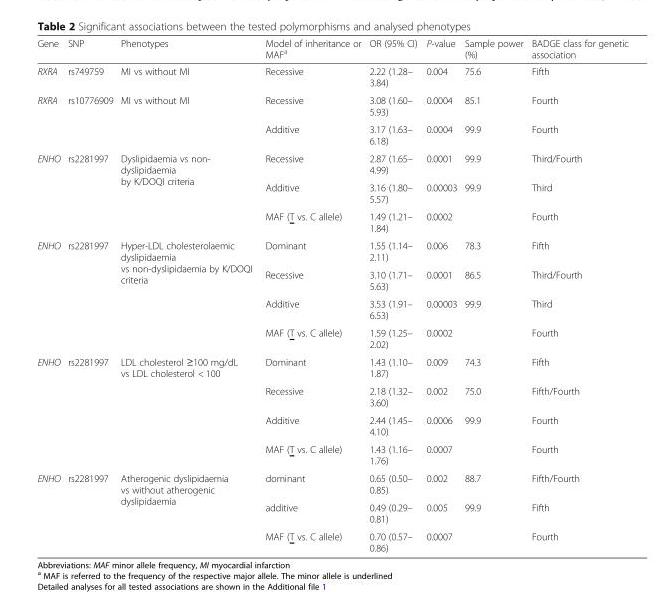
<table><thead><tr><td>Gene</td><td>SNP</td><td>Phenotypes</td><td>Model of inheritance or MAF<sup>a</sup></td><td>OR (95% CI)</td><td>P-value</td><td>Sample power (%)</td><td>BADGE class for genetic association</td></tr></thead><tbody><tr><td>RXRA</td><td>rs749759</td><td>MI vs without MI</td><td>Recessive</td><td>2.22 (1.28– 3.84)</td><td>0.004</td><td>75.6</td><td>Fifth</td></tr><tr><td rowspan="2">RXRA</td><td>rs10776909</td><td rowspan="2">MI vs without MI</td><td>Recessive</td><td>3.08 (1.60– 5.93)</td><td>0.0004</td><td>85.1</td><td>Fourth</td></tr><tr><td></td><td>Additive</td><td>3.17 (1.63– 6.18)</td><td>0.0004</td><td>99.9</td><td>Fourth</td></tr><tr><td rowspan="3">ENHO</td><td>rs2281997</td><td rowspan="3">Dyslipidaemia vs non- dyslipidaemia by K/DOQI criteria</td><td>Recessive</td><td>2.87 (1.65– 4.99)</td><td>0.0001</td><td>99.9</td><td>Third/Fourth</td></tr><tr><td></td><td>Additive</td><td>3.16 (1.80– 5.57)</td><td>0.00003</td><td>99.9</td><td>Third</td></tr><tr><td></td><td>MAF (T vs. C allele)</td><td>1.49 (1.21– 1.84)</td><td>0.0002</td><td></td><td>Fourth</td></tr><tr><td rowspan="4">ENHO</td><td>rs2281997</td><td rowspan="4">Hyper-LDL cholesterolaemic dyslipidaemia vs non-dyslipidaemia by K/DOQI criteria</td><td>Dominant</td><td>1.55 (1.14– 2.11)</td><td>0.006</td><td>78.3</td><td>Fifth</td></tr><tr><td></td><td>Recessive</td><td>3.10 (1.71– 5.63)</td><td>0.0001</td><td>86.5</td><td>Third/Fourth</td></tr><tr><td></td><td>Additive</td><td>3.53 (1.91– 6.53)</td><td>0.00003</td><td>99.9</td><td>Third</td></tr><tr><td></td><td>MAF (T vs. C allele)</td><td>1.59 (1.25– 2.02)</td><td>0.0002</td><td></td><td>Fourth</td></tr><tr><td rowspan="4">ENHO</td><td>rs2281997</td><td rowspan="4">LDL cholesterol ≥100 mg/dL vs LDL cholesterol &lt; 100</td><td>Dominant</td><td>1.43 (1.10– 1.87)</td><td>0.009</td><td>74.3</td><td>Fifth</td></tr><tr><td></td><td>Recessive</td><td>2.18 (1.32– 3.60)</td><td>0.002</td><td>75.0</td><td>Fifth/Fourth</td></tr><tr><td></td><td>Additive</td><td>2.44 (1.45– 4.10)</td><td>0.0006</td><td>99.9</td><td>Fourth</td></tr><tr><td></td><td>MAF (T vs. C allele)</td><td>1.43 (1.16– 1.76)</td><td>0.0007</td><td></td><td>Fourth</td></tr><tr><td rowspan="3">ENHO</td><td>rs2281997</td><td rowspan="3">Atherogenic dyslipidaemia vs without atherogenic dyslipidaemia</td><td>dominant</td><td>0.65 (0.50– 0.85)</td><td>0.002</td><td>88.7</td><td>Fifth/Fourth</td></tr><tr><td></td><td>additive</td><td>0.49 (0.29– 0.81)</td><td>0.005</td><td>99.9</td><td>Fifth</td></tr><tr><td></td><td>MAF (T vs. C allele)</td><td>0.70 (0.57– 0.86)</td><td>0.0007</td><td></td><td>Fourth</td></tr></tbody></table>